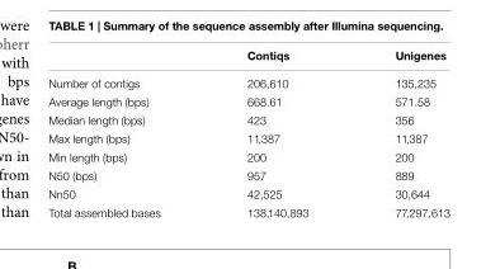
<table><thead><tr><td></td><td>Contiqs</td><td>Unigenes</td></tr></thead><tbody><tr><td>Number of contigs</td><td>206,610</td><td>135,235</td></tr><tr><td>Average length (bps)</td><td>668.61</td><td>571.58</td></tr><tr><td>Median length (bps)</td><td>423</td><td>356</td></tr><tr><td>Max length (bps)</td><td>11,387</td><td>11,387</td></tr><tr><td>Min length (bps)</td><td>200</td><td>200</td></tr><tr><td>N50 (bps)</td><td>957</td><td>889</td></tr><tr><td>Nn50</td><td>42,525</td><td>30,644</td></tr><tr><td>Total assembled bases</td><td>138,140,893</td><td>77,297,613</td></tr></tbody></table>